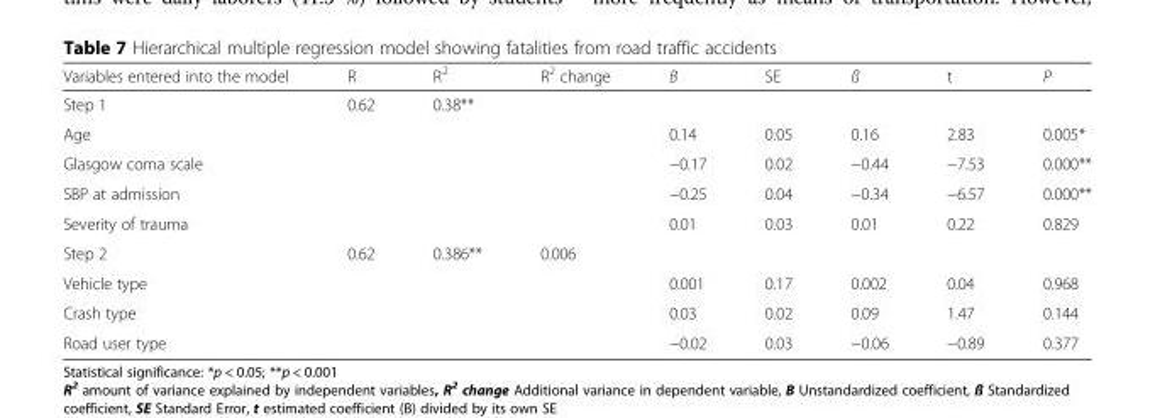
<table><thead><tr><td>Variables entered into the model</td><td>R</td><td>R<sup>2</sup></td><td>R<sup>2</sup> change</td><td>B</td><td>SE</td><td>ß</td><td>t</td><td>P</td></tr></thead><tbody><tr><td>Step 1</td><td>0.62</td><td>0.38**</td><td></td><td></td><td></td><td></td><td></td><td></td></tr><tr><td>Age</td><td></td><td></td><td></td><td>0.14</td><td>0.05</td><td>0.16</td><td>2.83</td><td>0.005*</td></tr><tr><td>Glasgow coma scale</td><td></td><td></td><td></td><td>−0.17</td><td>0.02</td><td>−0.44</td><td>−7.53</td><td>0.000**</td></tr><tr><td>SBP at admission</td><td></td><td></td><td></td><td>−0.25</td><td>0.04</td><td>−0.34</td><td>−6.57</td><td>0.000**</td></tr><tr><td>Severity of trauma</td><td></td><td></td><td></td><td>0.01</td><td>0.03</td><td>0.01</td><td>0.22</td><td>0.829</td></tr><tr><td>Step 2</td><td>0.62</td><td>0.386**</td><td>0.006</td><td></td><td></td><td></td><td></td><td></td></tr><tr><td>Vehicle type</td><td></td><td></td><td></td><td>0.001</td><td>0.17</td><td>0.002</td><td>0.04</td><td>0.968</td></tr><tr><td>Crash type</td><td></td><td></td><td></td><td>0.03</td><td>0.02</td><td>0.09</td><td>1.47</td><td>0.144</td></tr><tr><td>Road user type</td><td></td><td></td><td></td><td>−0.02</td><td>0.03</td><td>−0.06</td><td>−0.89</td><td>0.377</td></tr></tbody></table>